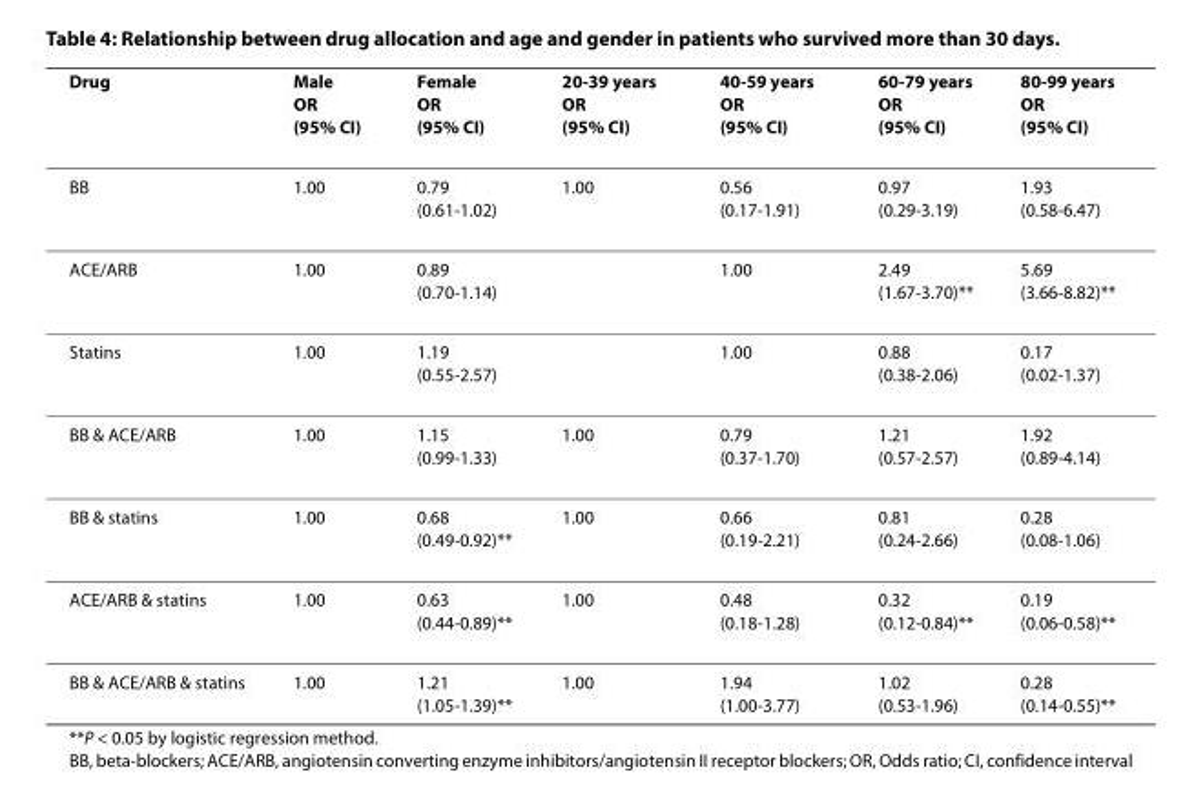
<table><thead><tr><td>Drug</td><td>Male OR (95% CI)</td><td>Female OR (95% CI)</td><td>20-39 years OR (95% CI)</td><td>40-59 years OR (95% CI)</td><td>60-79 years OR (95% CI)</td><td>80-99 years OR (95% CI)</td></tr></thead><tbody><tr><td>BB</td><td>1.00</td><td>0.79 (0.61-1.02)</td><td>1.00</td><td>0.56 (0.17-1.91)</td><td>0.97 (0.29-3.19)</td><td>1.93 (0.58-6.47)</td></tr><tr><td>ACE/ARB</td><td>1.00</td><td>0.89 (0.70-1.14)</td><td></td><td>1.00</td><td>2.49 (1.67-3.70)**</td><td>5.69 (3.66-8.82)**</td></tr><tr><td>Statins</td><td>1.00</td><td>1.19 (0.55-2.57)</td><td></td><td>1.00</td><td>0.88 (0.38-2.06)</td><td>0.17 (0.02-1.37)</td></tr><tr><td>BB &amp; ACE/ARB</td><td>1.00</td><td>1.15 (0.99-1.33)</td><td>1.00</td><td>0.79 (0.37-1.70)</td><td>1.21 (0.57-2.57)</td><td>1.92 (0.89-4.14)</td></tr><tr><td>BB &amp; statins</td><td>1.00</td><td>0.68 (0.49-0.92)**</td><td>1.00</td><td>0.66 (0.19-2.21)</td><td>0.81 (0.24-2.66)</td><td>0.28 (0.08-1.06)</td></tr><tr><td>ACE/ARB &amp; statins</td><td>1.00</td><td>0.63 (0.44-0.89)**</td><td>1.00</td><td>0.48 (0.18-1.28)</td><td>0.32 (0.12-0.84)**</td><td>0.19 (0.06-0.58)**</td></tr><tr><td>BB &amp; ACE/ARB &amp; statins</td><td>1.00</td><td>1.21 (1.05-1.39)**</td><td>1.00</td><td>1.94 (1.00-3.77)</td><td>1.02 (0.53-1.96)</td><td>0.28 (0.14-0.55)**</td></tr></tbody></table>